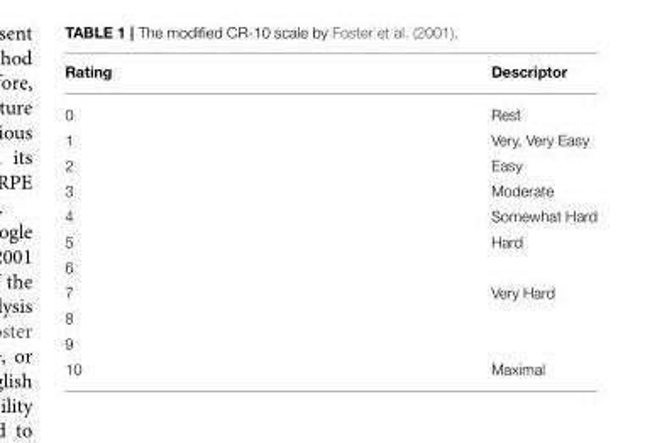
<table><thead><tr><td>Rating</td><td>Descriptor</td></tr></thead><tbody><tr><td>0</td><td>Rest</td></tr><tr><td>1</td><td>Very, Very Easy</td></tr><tr><td>2</td><td>Easy</td></tr><tr><td>3</td><td>Moderate</td></tr><tr><td>4</td><td>Somewhat Hard</td></tr><tr><td>5</td><td>Hard</td></tr><tr><td colspan="2">6</td></tr><tr><td>7</td><td>Very Hard</td></tr><tr><td colspan="2">8</td></tr><tr><td colspan="2">9</td></tr><tr><td>10</td><td>Maximal</td></tr></tbody></table>